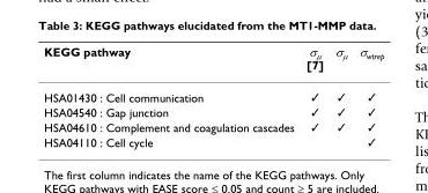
<table><thead><tr><td>KEGG pathway</td><td>σ<sub>μ</sub> [7]</td><td>σ<sub>μ</sub></td><td>σ<sub>wtrep</sub></td></tr></thead><tbody><tr><td>HSA01430 : Cell communication</td><td>✓</td><td>✓</td><td>✓</td></tr><tr><td>HSA04540 : Gap junction</td><td>✓</td><td>✓</td><td>✓</td></tr><tr><td>HSA04610 : Complement and coagulation cascades</td><td>✓</td><td>✓</td><td>✓</td></tr><tr><td>HSA04110 : Cell cycle</td><td></td><td></td><td>✓</td></tr></tbody></table>